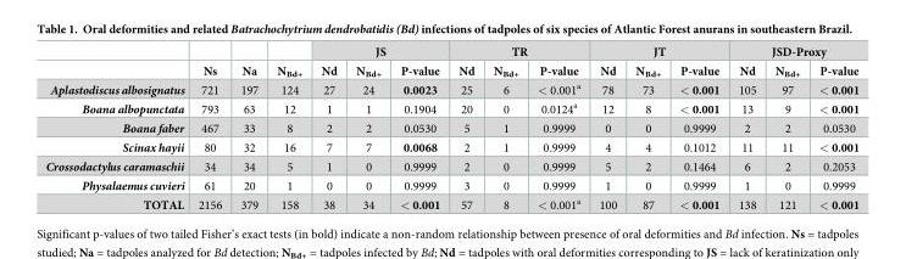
<table><thead><tr><td rowspan="2"></td><td rowspan="2">Ns</td><td rowspan="2">Na</td><td rowspan="2">N<sub>Bd+</sub></td><td colspan="3">JS</td><td colspan="3">TR</td><td colspan="3">JT</td><td colspan="3">JSD-Proxy</td></tr><tr><td>Nd</td><td>N<sub>Bd+</sub></td><td>P-value</td><td>Nd</td><td>N<sub>Bd+</sub></td><td>P-value</td><td>Nd</td><td>N<sub>Bd+</sub></td><td>P-value</td><td>Nd</td><td>N<sub>Bd+</sub></td><td>P-value</td></tr></thead><tbody><tr><td>Aplastodiscus albosignatus</td><td>721</td><td>197</td><td>124</td><td>27</td><td>24</td><td>0.0023</td><td>25</td><td>6</td><td>&lt; 0.001<sup>a</sup></td><td>78</td><td>73</td><td>&lt; 0.001</td><td>105</td><td>97</td><td>&lt; 0.001</td></tr><tr><td>Boana albopunctata</td><td>793</td><td>63</td><td>12</td><td>1</td><td>1</td><td>0.1904</td><td>20</td><td>0</td><td>0.0124<sup>a</sup></td><td>12</td><td>8</td><td>&lt; 0.001</td><td>13</td><td>9</td><td>&lt; 0.001</td></tr><tr><td>Boana faber</td><td>467</td><td>33</td><td>8</td><td>2</td><td>2</td><td>0.0530</td><td>5</td><td>1</td><td>0.9999</td><td>0</td><td>0</td><td>0.9999</td><td>2</td><td>2</td><td>0.0530</td></tr><tr><td>Scinax hayii</td><td>80</td><td>32</td><td>16</td><td>7</td><td>7</td><td>0.0068</td><td>2</td><td>1</td><td>0.9999</td><td>4</td><td>4</td><td>0.1012</td><td>11</td><td>11</td><td>&lt; 0.001</td></tr><tr><td>Crossodactylus caramaschii</td><td>34</td><td>34</td><td>5</td><td>1</td><td>0</td><td>0.9999</td><td>2</td><td>0</td><td>0.9999</td><td>5</td><td>2</td><td>0.1464</td><td>6</td><td>2</td><td>0.2053</td></tr><tr><td>Physalaemus cuvieri</td><td>61</td><td>20</td><td>1</td><td>0</td><td>0</td><td>0.9999</td><td>3</td><td>0</td><td>0.9999</td><td>1</td><td>0</td><td>0.9999</td><td>1</td><td>0</td><td>0.9999</td></tr><tr><td>TOTAL</td><td>2156</td><td>379</td><td>158</td><td>38</td><td>34</td><td>&lt; 0.001</td><td>57</td><td>8</td><td>&lt; 0.001<sup>a</sup></td><td>100</td><td>87</td><td>&lt; 0.001</td><td>138</td><td>121</td><td>&lt; 0.001</td></tr></tbody></table>